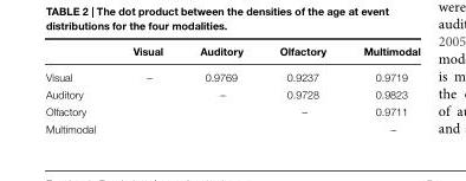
<table><thead><tr><td></td><td>Visual</td><td>Auditory</td><td>Olfactory</td><td>Multimodal</td></tr></thead><tbody><tr><td>Visual</td><td>–</td><td>0.9769</td><td>0.9237</td><td>0.9719</td></tr><tr><td>Auditory</td><td></td><td>–</td><td>0.9728</td><td>0.9823</td></tr><tr><td>Olfactory</td><td></td><td></td><td>–</td><td>0.9711</td></tr><tr><td>Multimodal</td><td></td><td></td><td></td><td>–</td></tr></tbody></table>